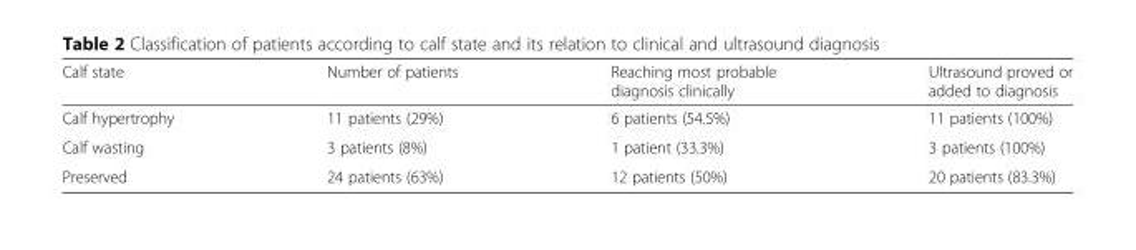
<table><thead><tr><td>Calf state</td><td>Number of patients</td><td>Reaching most probable diagnosis clinically</td><td>Ultrasound proved or added to diagnosis</td></tr></thead><tbody><tr><td>Calf hypertrophy</td><td>11 patients (29%)</td><td>6 patients (54.5%)</td><td>11 patients (100%)</td></tr><tr><td>Calf wasting</td><td>3 patients (8%)</td><td>1 patient (33.3%)</td><td>3 patients (100%)</td></tr><tr><td>Preserved</td><td>24 patients (63%)</td><td>12 patients (50%)</td><td>20 patients (83.3%)</td></tr></tbody></table>